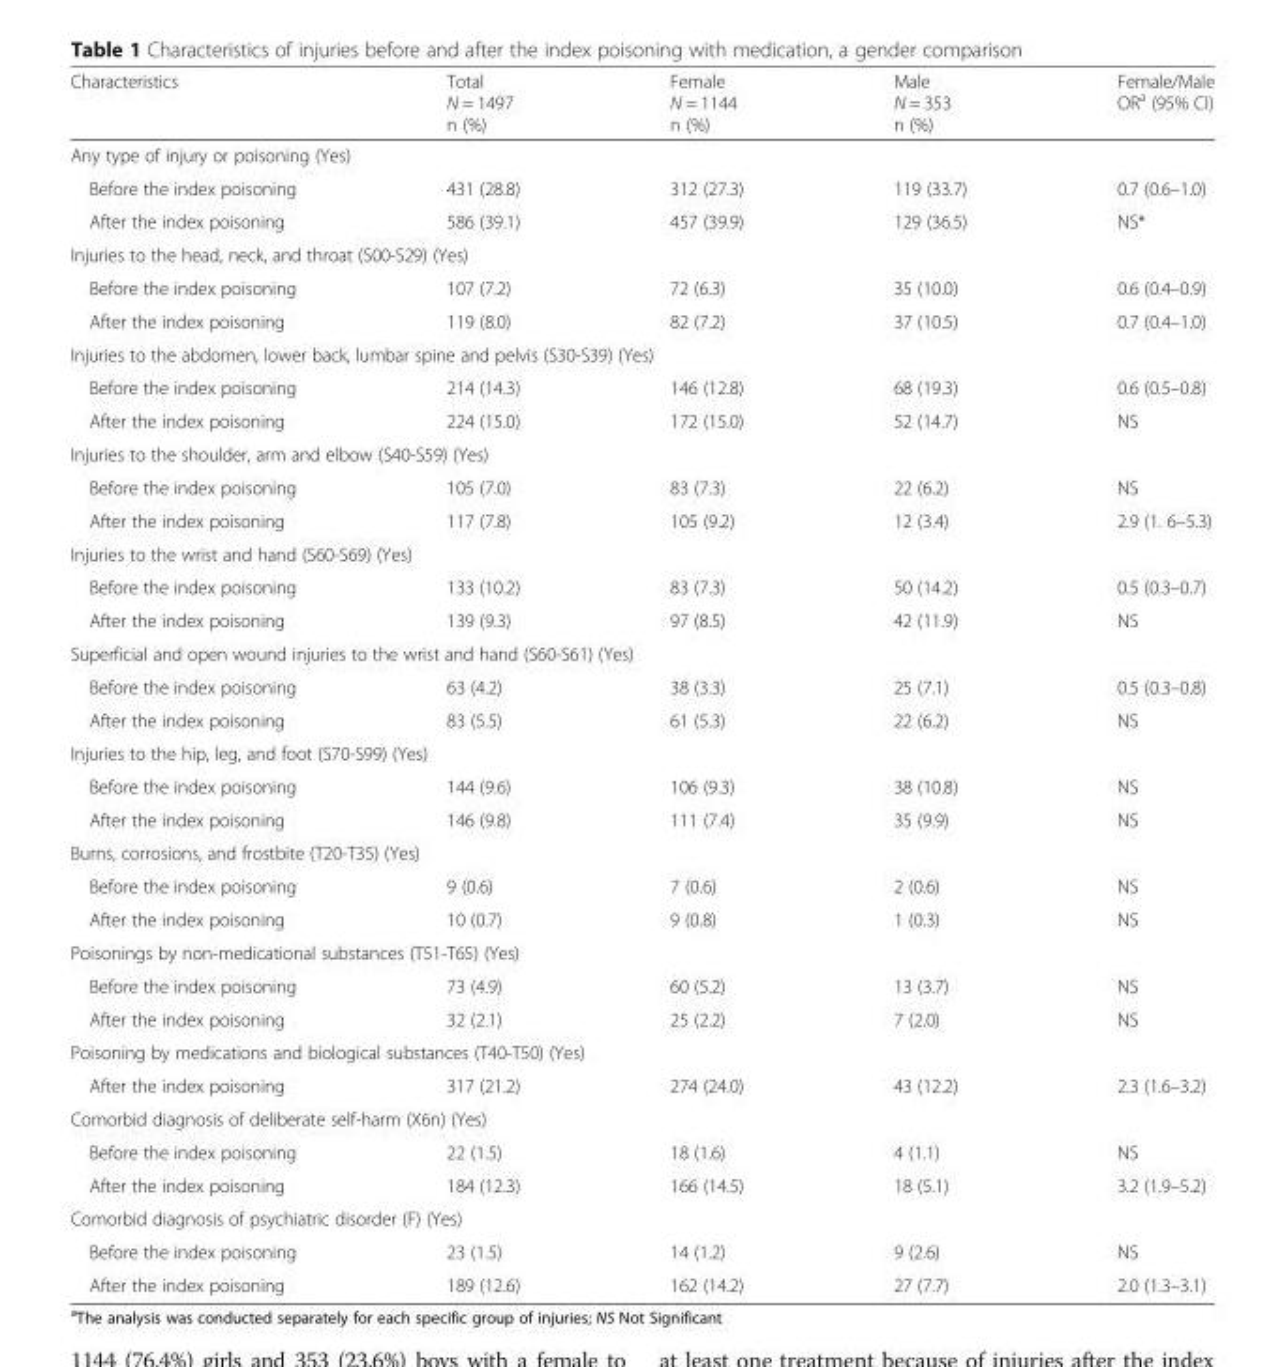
<table><thead><tr><td>Characteristics</td><td>Total N = 1497 n (%)</td><td>Female N = 1144 n (%)</td><td>Male N = 353 n (%)</td><td>Female/Male OR<sup>a</sup> (95% CI)</td></tr></thead><tbody><tr><td colspan="5">Any type of injury or poisoning (Yes)</td></tr><tr><td>Before the index poisoning</td><td>431 (28.8)</td><td>312 (27.3)</td><td>119 (33.7)</td><td>0.7 (0.6–1.0)</td></tr><tr><td>After the index poisoning</td><td>586 (39.1)</td><td>457 (39.9)</td><td>129 (36.5)</td><td>NS*</td></tr><tr><td colspan="5">Injuries to the head, neck, and throat (S00-S29) (Yes)</td></tr><tr><td>Before the index poisoning</td><td>107 (7.2)</td><td>72 (6.3)</td><td>35 (10.0)</td><td>0.6 (0.4–0.9)</td></tr><tr><td>After the index poisoning</td><td>119 (8.0)</td><td>82 (7.2)</td><td>37 (10.5)</td><td>0.7 (0.4–1.0)</td></tr><tr><td colspan="5">Injuries to the abdomen, lower back, lumbar spine and pelvis (S30-S39) (Yes)</td></tr><tr><td>Before the index poisoning</td><td>214 (14.3)</td><td>146 (12.8)</td><td>68 (19.3)</td><td>0.6 (0.5–0.8)</td></tr><tr><td>After the index poisoning</td><td>224 (15.0)</td><td>172 (15.0)</td><td>52 (14.7)</td><td>NS</td></tr><tr><td colspan="5">Injuries to the shoulder, arm and elbow (S40-S59) (Yes)</td></tr><tr><td>Before the index poisoning</td><td>105 (7.0)</td><td>83 (7.3)</td><td>22 (6.2)</td><td>NS</td></tr><tr><td>After the index poisoning</td><td>117 (7.8)</td><td>105 (9.2)</td><td>12 (3.4)</td><td>2.9 (1. 6–5.3)</td></tr><tr><td colspan="5">Injuries to the wrist and hand (S60-S69) (Yes)</td></tr><tr><td>Before the index poisoning</td><td>133 (10.2)</td><td>83 (7.3)</td><td>50 (14.2)</td><td>0.5 (0.3–0.7)</td></tr><tr><td>After the index poisoning</td><td>139 (9.3)</td><td>97 (8.5)</td><td>42 (11.9)</td><td>NS</td></tr><tr><td colspan="5">Superficial and open wound injuries to the wrist and hand (S60-S61) (Yes)</td></tr><tr><td>Before the index poisoning</td><td>63 (4.2)</td><td>38 (3.3)</td><td>25 (7.1)</td><td>0.5 (0.3–0.8)</td></tr><tr><td>After the index poisoning</td><td>83 (5.5)</td><td>61 (5.3)</td><td>22 (6.2)</td><td>NS</td></tr><tr><td colspan="5">Injuries to the hip, leg, and foot (S70-S99) (Yes)</td></tr><tr><td>Before the index poisoning</td><td>144 (9.6)</td><td>106 (9.3)</td><td>38 (10.8)</td><td>NS</td></tr><tr><td>After the index poisoning</td><td>146 (9.8)</td><td>111 (7.4)</td><td>35 (9.9)</td><td>NS</td></tr><tr><td colspan="5">Burns, corrosions, and frostbite (T20-T35) (Yes)</td></tr><tr><td>Before the index poisoning</td><td>9 (0.6)</td><td>7 (0.6)</td><td>2 (0.6)</td><td>NS</td></tr><tr><td>After the index poisoning</td><td>10 (0.7)</td><td>9 (0.8)</td><td>1 (0.3)</td><td>NS</td></tr><tr><td colspan="5">Poisonings by non-medicational substances (T51-T65) (Yes)</td></tr><tr><td>Before the index poisoning</td><td>73 (4.9)</td><td>60 (5.2)</td><td>13 (3.7)</td><td>NS</td></tr><tr><td>After the index poisoning</td><td>32 (2.1)</td><td>25 (2.2)</td><td>7 (2.0)</td><td>NS</td></tr><tr><td colspan="5">Poisoning by medications and biological substances (T40-T50) (Yes)</td></tr><tr><td>After the index poisoning</td><td>317 (21.2)</td><td>274 (24.0)</td><td>43 (12.2)</td><td>2.3 (1.6–3.2)</td></tr><tr><td colspan="5">Comorbid diagnosis of deliberate self-harm (X6n) (Yes)</td></tr><tr><td>Before the index poisoning</td><td>22 (1.5)</td><td>18 (1.6)</td><td>4 (1.1)</td><td>NS</td></tr><tr><td>After the index poisoning</td><td>184 (12.3)</td><td>166 (14.5)</td><td>18 (5.1)</td><td>3.2 (1.9–5.2)</td></tr><tr><td colspan="5">Comorbid diagnosis of psychiatric disorder (F) (Yes)</td></tr><tr><td>Before the index poisoning</td><td>23 (1.5)</td><td>14 (1.2)</td><td>9 (2.6)</td><td>NS</td></tr><tr><td>After the index poisoning</td><td>189 (12.6)</td><td>162 (14.2)</td><td>27 (7.7)</td><td>2.0 (1.3–3.1)</td></tr></tbody></table>